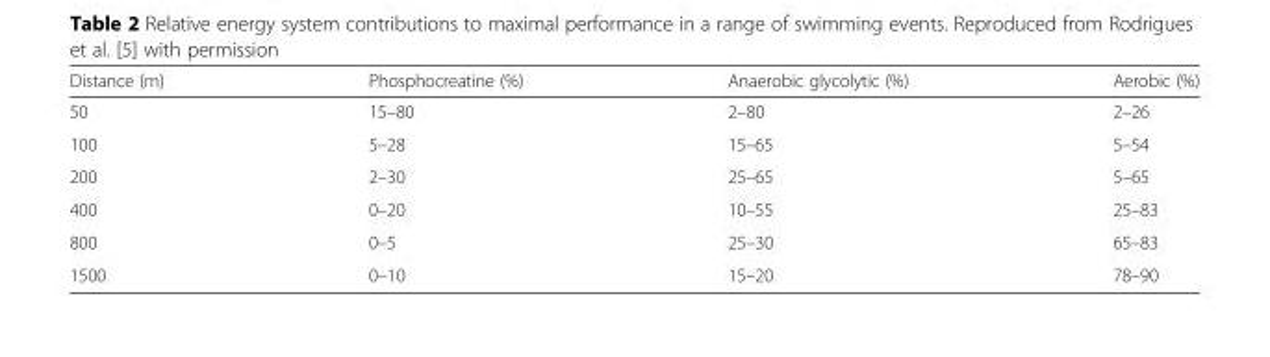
<table><thead><tr><td>Distance (m)</td><td>Phosphocreatine (%)</td><td>Anaerobic glycolytic (%)</td><td>Aerobic (%)</td></tr></thead><tbody><tr><td>50</td><td>15–80</td><td>2–80</td><td>2–26</td></tr><tr><td>100</td><td>5–28</td><td>15–65</td><td>5–54</td></tr><tr><td>200</td><td>2–30</td><td>25–65</td><td>5–65</td></tr><tr><td>400</td><td>0–20</td><td>10–55</td><td>25–83</td></tr><tr><td>800</td><td>0–5</td><td>25–30</td><td>65–83</td></tr><tr><td>1500</td><td>0–10</td><td>15–20</td><td>78–90</td></tr></tbody></table>